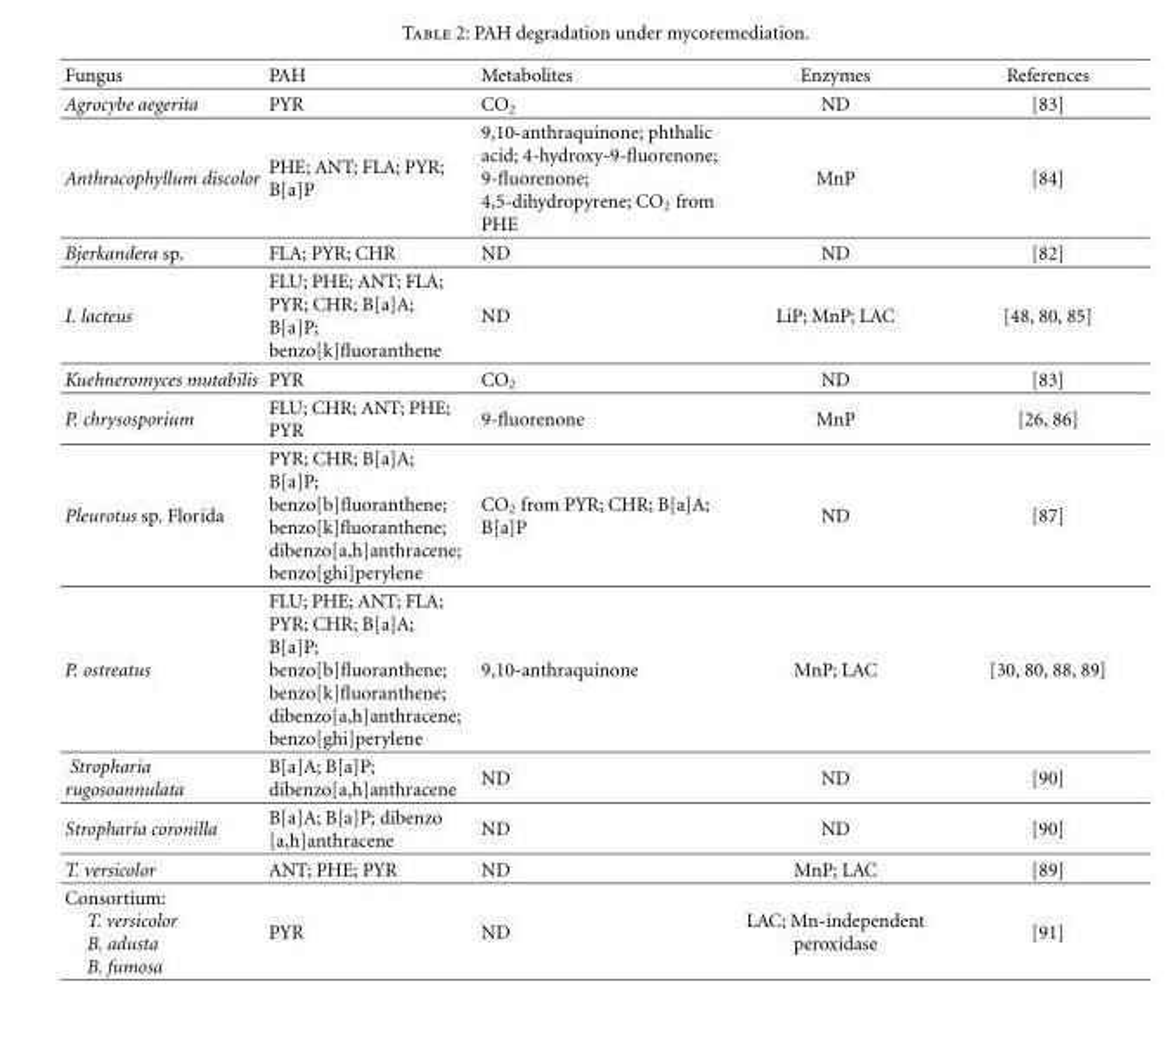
<table><thead><tr><td>Fungus</td><td>PAH</td><td>Metabolites</td><td>Enzymes</td><td>References</td></tr></thead><tbody><tr><td>Agrocybe aegerita</td><td>PYR</td><td>CO2</td><td>ND</td><td>[83]</td></tr><tr><td>Anthracophyllum discolor</td><td>PHE; ANT; FLA; PYR; B[a]P</td><td>9,10-anthraquinone; phthalic acid; 4-hydroxy-9-fluorenone; 9-fluorenone; 4,5-dihydropyrene; CO2 from PHE</td><td>MnP</td><td>[84]</td></tr><tr><td>Bjerkandera sp.</td><td>FLA; PYR; CHR</td><td>ND</td><td>ND</td><td>[82]</td></tr><tr><td>I. lacteus</td><td>FLU; PHE; ANT; FLA; PYR; CHR; B[a]A; B[a]P; benzo[k]fluoranthene</td><td>ND</td><td>LiP; MnP; LAC</td><td>[48, 80, 85]</td></tr><tr><td>Kuehneromyces mutabilis</td><td>PYR</td><td>CO2</td><td>ND</td><td>[83]</td></tr><tr><td>P. chrysosporium</td><td>FLU; CHR; ANT; PHE; PYR</td><td>9-fluorenone</td><td>MnP</td><td>[26, 86]</td></tr><tr><td>Pleurotus sp. Florida</td><td>PYR; CHR; B[a]A; B[a]P; benzo[b]fluoranthene; benzo[k]fluoranthene; dibenzo[a,h]anthracene; benzo[ghi]perylene</td><td>CO2 from PYR; CHR; B[a]A; B[a]P</td><td>ND</td><td>[87]</td></tr><tr><td>P. ostreatus</td><td>FLU; PHE; ANT; FLA; PYR; CHR; B[a]A; B[a]P; benzo[b]fluoranthene; benzo[k]fluoranthene; dibenzo[a,h]anthracene; benzo[ghi]perylene</td><td>9,10-anthraquinone</td><td>MnP; LAC</td><td>[30, 80, 88, 89]</td></tr><tr><td>Stropharia rugosoannulata</td><td>B[a]A; B[a]P; dibenzo[a,h]anthracene</td><td>ND</td><td>ND</td><td>[90]</td></tr><tr><td>Stropharia coronilla</td><td>B[a]A; B[a]P; dibenzo [a,h]anthracene</td><td>ND</td><td>ND</td><td>[90]</td></tr><tr><td>T. versicolor</td><td>ANT; PHE; PYR</td><td>ND</td><td>MnP; LAC</td><td>[89]</td></tr><tr><td>Consortium: T. versicolor B. adusta B. fumosa</td><td>PYR</td><td>ND</td><td>LAC; Mn-independent peroxidase</td><td>[91]</td></tr></tbody></table>